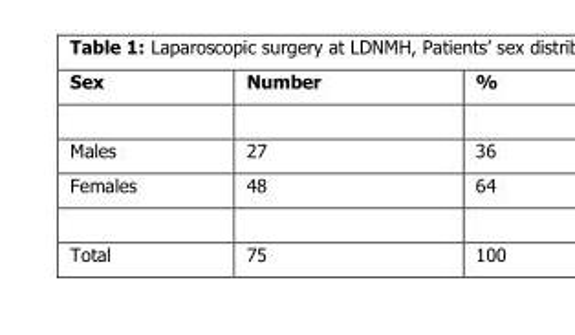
<table><thead><tr><td>Sex</td><td>Number</td><td>%</td></tr></thead><tbody><tr><td>Males</td><td>27</td><td>36</td></tr><tr><td>Females</td><td>48</td><td>64</td></tr><tr><td>Total</td><td>75</td><td>100</td></tr></tbody></table>